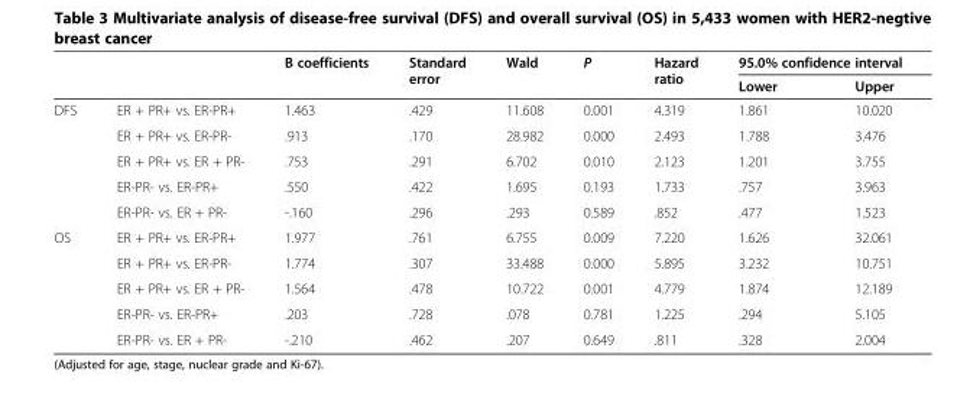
<table><thead><tr><td rowspan="2"></td><td rowspan="2"></td><td rowspan="2">B coefficients</td><td rowspan="2">Standard error</td><td rowspan="2">Wald</td><td rowspan="2">P</td><td rowspan="2">Hazard ratio</td><td colspan="2">95.0% confidence interval</td></tr><tr><td>Lower</td><td>Upper</td></tr></thead><tbody><tr><td rowspan="5">DFS</td><td>ER + PR+ vs. ER-PR+</td><td>1.463</td><td>.429</td><td>11.608</td><td>0.001</td><td>4.319</td><td>1.861</td><td>10.020</td></tr><tr><td>ER + PR+ vs. ER-PR-</td><td>.913</td><td>.170</td><td>28.982</td><td>0.000</td><td>2.493</td><td>1.788</td><td>3.476</td></tr><tr><td>ER + PR+ vs. ER + PR-</td><td>.753</td><td>.291</td><td>6.702</td><td>0.010</td><td>2.123</td><td>1.201</td><td>3.755</td></tr><tr><td>ER-PR- vs. ER-PR+</td><td>.550</td><td>.422</td><td>1.695</td><td>0.193</td><td>1.733</td><td>.757</td><td>3.963</td></tr><tr><td>ER-PR- vs. ER + PR-</td><td>-.160</td><td>.296</td><td>.293</td><td>0.589</td><td>.852</td><td>.477</td><td>1.523</td></tr><tr><td rowspan="5">OS</td><td>ER + PR+ vs. ER-PR+</td><td>1.977</td><td>.761</td><td>6.755</td><td>0.009</td><td>7.220</td><td>1.626</td><td>32.061</td></tr><tr><td>ER + PR+ vs. ER-PR-</td><td>1.774</td><td>.307</td><td>33.488</td><td>0.000</td><td>5.895</td><td>3.232</td><td>10.751</td></tr><tr><td>ER + PR+ vs. ER + PR-</td><td>1.564</td><td>.478</td><td>10.722</td><td>0.001</td><td>4.779</td><td>1.874</td><td>12.189</td></tr><tr><td>ER-PR- vs. ER-PR+</td><td>.203</td><td>.728</td><td>.078</td><td>0.781</td><td>1.225</td><td>.294</td><td>5.105</td></tr><tr><td>ER-PR- vs. ER + PR-</td><td>-.210</td><td>.462</td><td>.207</td><td>0.649</td><td>.811</td><td>.328</td><td>2.004</td></tr></tbody></table>